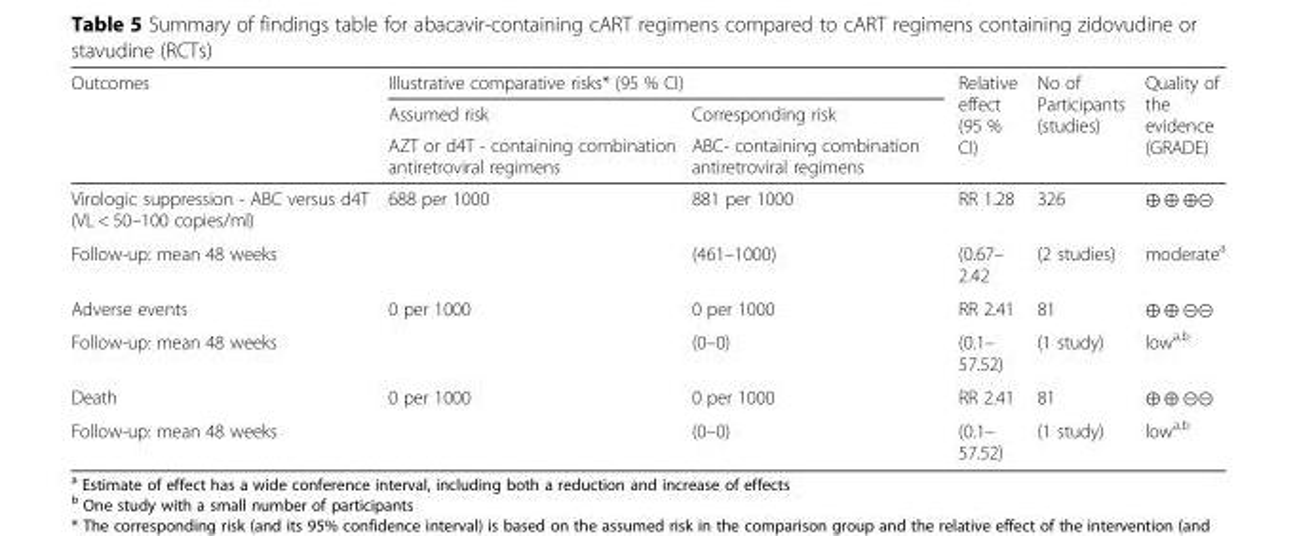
<table><thead><tr><td rowspan="3">Outcomes</td><td colspan="2">Illustrative comparative risks* (95 % CI)</td><td rowspan="3">Relative effect (95 % CI)</td><td rowspan="3">No of Participants (studies)</td><td rowspan="3">Quality of the evidence (GRADE)</td></tr><tr><td rowspan="2">Assumed risk AZT or d4T - containing combination antiretroviral regimens</td><td rowspan="2">Corresponding risk ABC- containing combination antiretroviral regimens</td></tr><tr></tr></thead><tbody><tr><td>Virologic suppression - ABC versus d4T (VL &lt; 50–100 copies/ml)</td><td rowspan="2">688 per 1000</td><td>881 per 1000</td><td>RR 1.28</td><td>326</td><td>⊕ ⊕ ⊕⊝</td></tr><tr><td>Follow-up: mean 48 weeks</td><td>(461–1000)</td><td>(0.67– 2.42</td><td>(2 studies)</td><td>moderate<sup>a</sup></td></tr><tr><td>Adverse events</td><td rowspan="2">0 per 1000</td><td>0 per 1000</td><td>RR 2.41</td><td>81</td><td>⊕ ⊕ ⊝⊝</td></tr><tr><td>Follow-up: mean 48 weeks</td><td>(0–0)</td><td>(0.1– 57.52)</td><td>(1 study)</td><td>low<sup>a,b</sup></td></tr><tr><td>Death</td><td rowspan="2">0 per 1000</td><td>0 per 1000</td><td>RR 2.41</td><td>81</td><td>⊕ ⊕ ⊝⊝</td></tr><tr><td>Follow-up: mean 48 weeks</td><td>(0–0)</td><td>(0.1– 57.52)</td><td>(1 study)</td><td>low<sup>a,b</sup></td></tr></tbody></table>